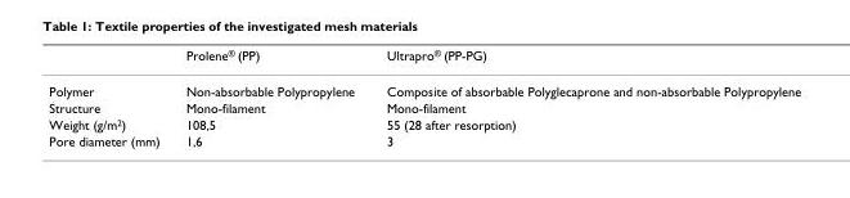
<table><thead><tr><td></td><td>Prolene<sup>®</sup> (PP)</td><td>Ultrapro<sup>®</sup> (PP-PG)</td></tr></thead><tbody><tr><td>Polymer</td><td>Non-absorbable Polypropylene</td><td>Composite of absorbable Polyglecaprone and non-absorbable Polypropylene</td></tr><tr><td>Structure</td><td>Mono-filament</td><td>Mono-filament</td></tr><tr><td>Weight (g/m<sup>2</sup>)</td><td>108,5</td><td>55 (28 after resorption)</td></tr><tr><td>Pore diameter (mm)</td><td>1,6</td><td>3</td></tr></tbody></table>